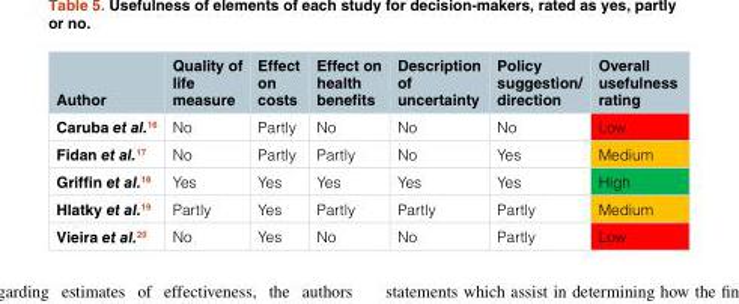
<table><thead><tr><td>Author</td><td>Quality of life measure</td><td>Effect on costs</td><td>Effect on health benefits</td><td>Description of uncertainty</td><td>Policy suggestion/ direction</td><td>Overall usefulness rating</td></tr></thead><tbody><tr><td>Caruba et al.<sup>16</sup></td><td>No</td><td>Partly</td><td>No</td><td>No</td><td>No</td><td>Low</td></tr><tr><td>Fidan et al.<sup>17</sup></td><td>No</td><td>Partly</td><td>Partly</td><td>No</td><td>Yes</td><td>Medium</td></tr><tr><td>Griffin et al.<sup>18</sup></td><td>Yes</td><td>Yes</td><td>Yes</td><td>Yes</td><td>Yes</td><td>High</td></tr><tr><td>Hlatky et al.<sup>19</sup></td><td>Partly</td><td>Yes</td><td>Partly</td><td>Partly</td><td>Partly</td><td>Medium</td></tr><tr><td>Vieira et al.<sup>20</sup></td><td>No</td><td>Yes</td><td>No</td><td>No</td><td>Partly</td><td>Low</td></tr></tbody></table>